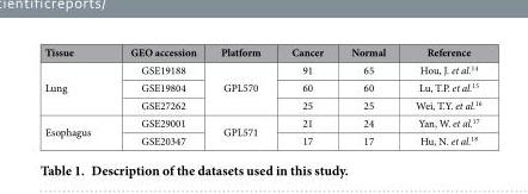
<table><thead><tr><td>Tissue</td><td>GEO accession</td><td>Platform</td><td>Cancer</td><td>Normal</td><td>Reference</td></tr></thead><tbody><tr><td rowspan="3">Lung</td><td>GSE19188</td><td rowspan="3">GPL570</td><td>91</td><td>65</td><td>Hou, J. et al.<sup>14</sup></td></tr><tr><td>GSE19804</td><td>60</td><td>60</td><td>Lu, T.P. et al.<sup>15</sup></td></tr><tr><td>GSE27262</td><td>25</td><td>25</td><td>Wei, T.Y. et al.<sup>16</sup></td></tr><tr><td rowspan="2">Esophagus</td><td>GSE29001</td><td rowspan="2">GPL571</td><td>21</td><td>24</td><td>Yan, W. et al.<sup>17</sup></td></tr><tr><td>GSE20347</td><td>17</td><td>17</td><td>Hu, N. et al.<sup>18</sup></td></tr></tbody></table>